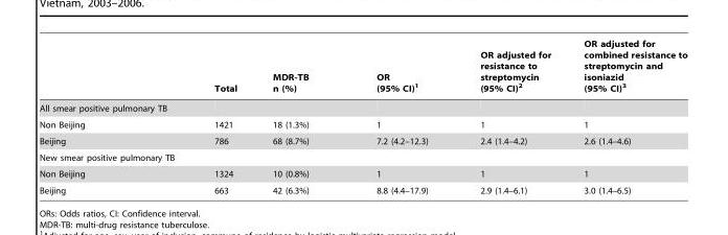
<table><thead><tr><td></td><td>Total</td><td>MDR-TB n (%)</td><td>OR (95% CI)<sup>1</sup></td><td>OR adjusted for resistance to streptomycin (95% CI)<sup>2</sup></td><td>OR adjusted for combined resistance to streptomycin and isoniazid (95% CI)<sup>3</sup></td></tr></thead><tbody><tr><td colspan="6">All smear positive pulmonary TB</td></tr><tr><td>Non Beijing</td><td>1421</td><td>18 (1.3%)</td><td>1</td><td>1</td><td>1</td></tr><tr><td>Beijing</td><td>786</td><td>68 (8.7%)</td><td>7.2 (4.2–12.3)</td><td>2.4 (1.4–4.2)</td><td>2.6 (1.4–4.6)</td></tr><tr><td colspan="6">New smear positive pulmonary TB</td></tr><tr><td>Non Beijing</td><td>1324</td><td>10 (0.8%)</td><td>1</td><td>1</td><td>1</td></tr><tr><td>Beijing</td><td>663</td><td>42 (6.3%)</td><td>8.8 (4.4–17.9)</td><td>2.9 (1.4–6.1)</td><td>3.0 (1.4–6.5)</td></tr></tbody></table>